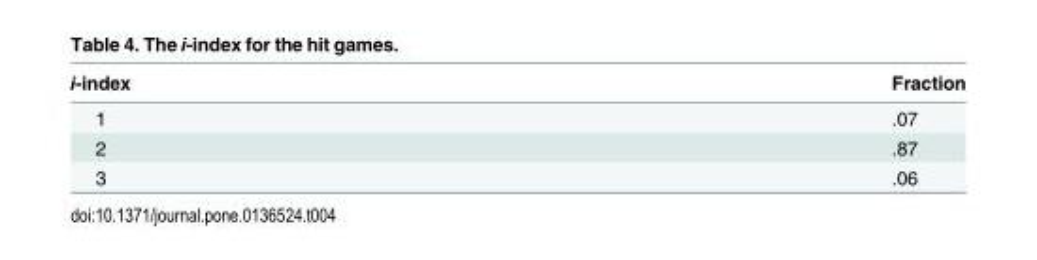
<table><thead><tr><td>i-index</td><td>Fraction</td></tr></thead><tbody><tr><td>1</td><td>.07</td></tr><tr><td>2</td><td>.87</td></tr><tr><td>3</td><td>.06</td></tr></tbody></table>